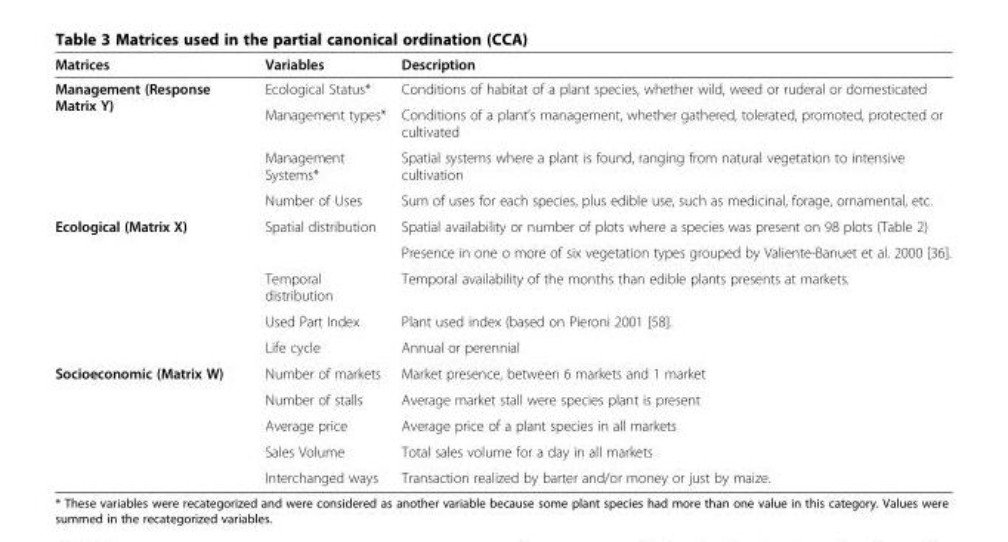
<table><thead><tr><td>Matrices</td><td>Variables</td><td>Description</td></tr></thead><tbody><tr><td rowspan="4">Management (Response Matrix Y)</td><td>Ecological Status*</td><td>Conditions of habitat of a plant species, whether wild, weed or ruderal or domesticated</td></tr><tr><td>Management types*</td><td>Conditions of a plant’s management, whether gathered, tolerated, promoted, protected or cultivated</td></tr><tr><td>Management Systems*</td><td>Spatial systems where a plant is found, ranging from natural vegetation to intensive cultivation</td></tr><tr><td>Number of Uses</td><td>Sum of uses for each species, plus edible use, such as medicinal, forage, ornamental, etc.</td></tr><tr><td rowspan="5">Ecological (Matrix X)</td><td>Spatial distribution</td><td>Spatial availability or number of plots where a species was present on 98 plots (Table 2)</td></tr><tr><td></td><td>Presence in one o more of six vegetation types grouped by Valiente-Banuet et al. 2000 [36].</td></tr><tr><td>Temporal distribution</td><td>Temporal availability of the months than edible plants presents at markets.</td></tr><tr><td>Used Part Index</td><td>Plant used index (based on Pieroni 2001 [58].</td></tr><tr><td>Life cycle</td><td>Annual or perennial</td></tr><tr><td rowspan="5">Socioeconomic (Matrix W)</td><td>Number of markets</td><td>Market presence, between 6 markets and 1 market</td></tr><tr><td>Number of stalls</td><td>Average market stall were species plant is present</td></tr><tr><td>Average price</td><td>Average price of a plant species in all markets</td></tr><tr><td>Sales Volume</td><td>Total sales volume for a day in all markets</td></tr><tr><td>Interchanged ways</td><td>Transaction realized by barter and/or money or just by maize.</td></tr></tbody></table>